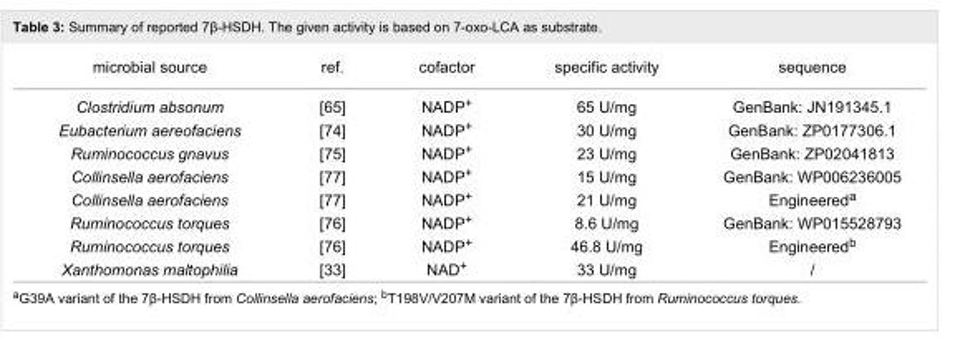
<table><tbody><tr><td>microbial source</td><td>ref.</td><td>cofactor</td><td>specific activity</td><td>sequence</td></tr><tr><td>Clostridium absonum</td><td>[65]</td><td>NADP<sup>+</sup></td><td>65 U/mg</td><td>GenBank: JN191345.1</td></tr><tr><td>Eubacterium aereofaciens</td><td>[74]</td><td>NADP<sup>+</sup></td><td>30 U/mg</td><td>GenBank: ZP0177306.1</td></tr><tr><td>Ruminococcus gnavus</td><td>[75]</td><td>NADP<sup>+</sup></td><td>23 U/mg</td><td>GenBank: ZP02041813</td></tr><tr><td>Collinsella aerofaciens</td><td>[77]</td><td>NADP<sup>+</sup></td><td>15 U/mg</td><td>GenBank: WP006236005</td></tr><tr><td>Collinsella aerofaciens</td><td>[77]</td><td>NADP<sup>+</sup></td><td>21 U/mg</td><td>Engineered<sup>a</sup></td></tr><tr><td>Ruminococcus torques</td><td>[76]</td><td>NADP<sup>+</sup></td><td>8.6 U/mg</td><td>GenBank: WP015528793</td></tr><tr><td>Ruminococcus torques</td><td>[76]</td><td>NADP<sup>+</sup></td><td>46.8 U/mg</td><td>Engineered<sup>b</sup></td></tr><tr><td>Xanthomonas maltophilia</td><td>[33]</td><td>NAD<sup>+</sup></td><td>33 U/mg</td><td>/</td></tr></tbody></table>